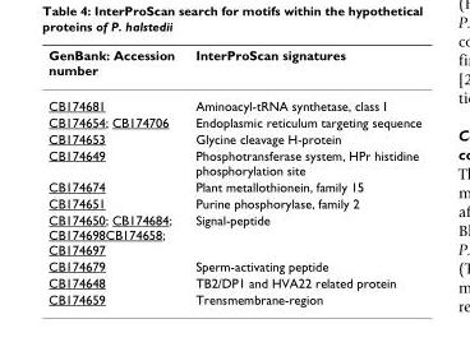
<table><thead><tr><td>GenBank: Accession number</td><td>InterProScan signatures</td></tr></thead><tbody><tr><td>CB174681</td><td>Aminoacyl-tRNA synthetase, class I</td></tr><tr><td>CB174654; CB174706</td><td>Endoplasmic reticulum targeting sequence</td></tr><tr><td>CB174653</td><td>Glycine cleavage H-protein</td></tr><tr><td>CB174649</td><td>Phosphotransferase system, HPr histidine phosphorylation site</td></tr><tr><td>CB174674</td><td>Plant metallothionein, family 15</td></tr><tr><td>CB174651</td><td>Purine phosphorylase, family 2</td></tr><tr><td>CB174650; CB174684; CB174698CB174658; CB174697</td><td>Signal-peptide</td></tr><tr><td>CB174679</td><td>Sperm-activating peptide</td></tr><tr><td>CB174648</td><td>TB2/DP1 and HVA22 related protein</td></tr><tr><td>CB174659</td><td>Trensmembrane-region</td></tr></tbody></table>